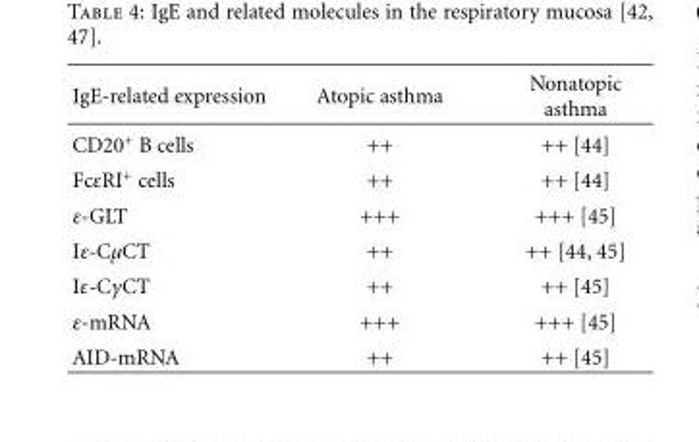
<table><thead><tr><td>IgE-related expression</td><td>Atopic asthma</td><td>Nonatopic asthma</td></tr></thead><tbody><tr><td>CD20<sup>+</sup> B cells</td><td>++</td><td>++ [44]</td></tr><tr><td>FcεRI<sup>+</sup> cells</td><td>++</td><td>++ [44]</td></tr><tr><td>ε-GLT</td><td>+++</td><td>+++ [45]</td></tr><tr><td>Iε-CμCT</td><td>++</td><td>++ [44, 45]</td></tr><tr><td>Iε-CγCT</td><td>++</td><td>++ [45]</td></tr><tr><td>ε-mRNA</td><td>+++</td><td>+++ [45]</td></tr><tr><td>AID-mRNA</td><td>++</td><td>++ [45]</td></tr></tbody></table>